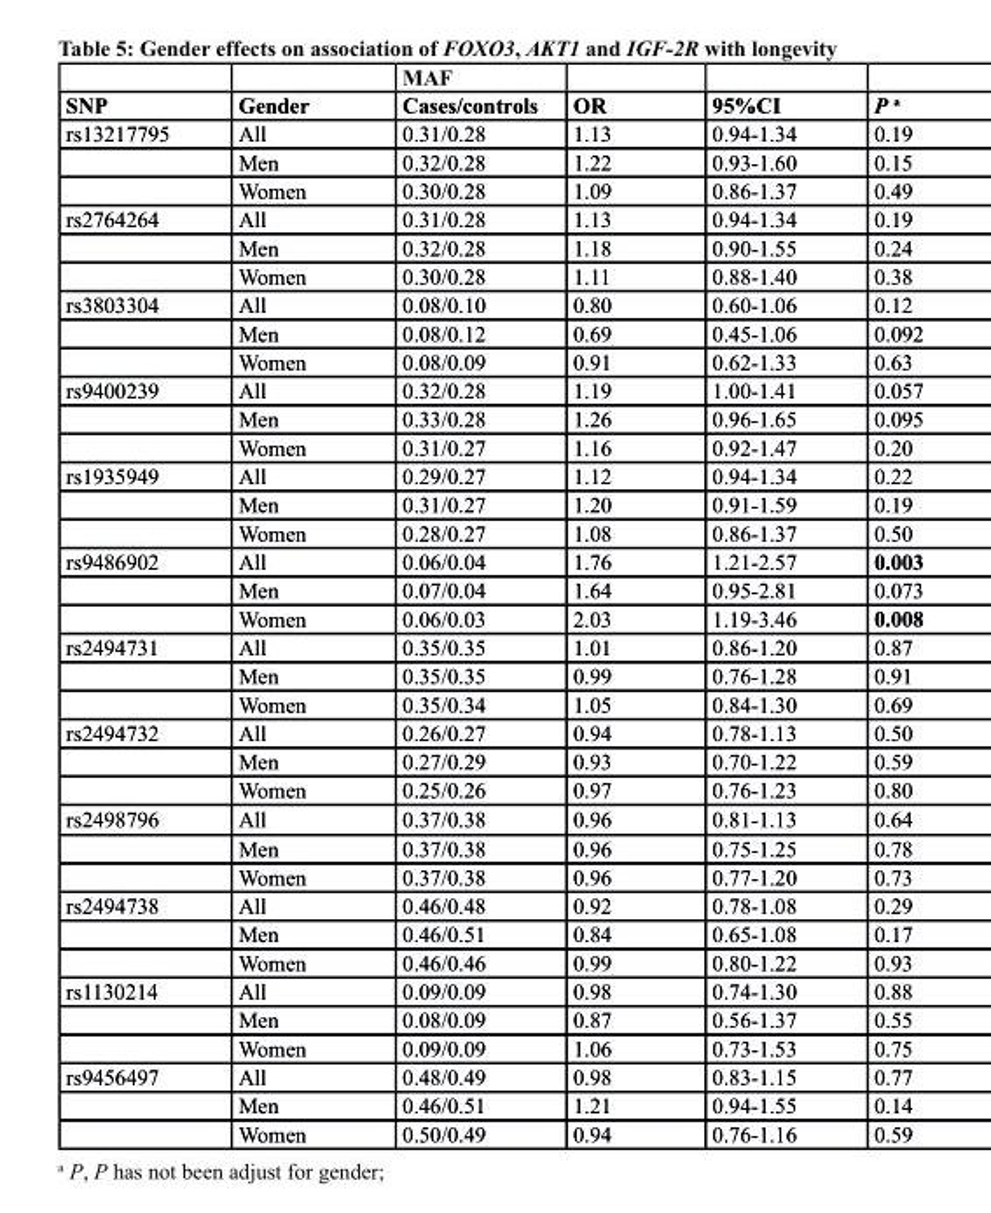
<table><thead><tr><td rowspan="2">sNP</td><td rowspan="2">Gender</td><td rowspan="2">MAF cases/controls</td><td rowspan="2">Or</td><td rowspan="2">95%cI</td><td rowspan="2">P <sup>a</sup></td></tr><tr></tr></thead><tbody><tr><td rowspan="3">rs13217795</td><td>All</td><td>0.31/0.28</td><td>1.13</td><td>0.94-1.34</td><td>0.19</td></tr><tr><td>Men</td><td>0.32/0.28</td><td>1.22</td><td>0.93-1.60</td><td>0.15</td></tr><tr><td>Women</td><td>0.30/0.28</td><td>1.09</td><td>0.86-1.37</td><td>0.49</td></tr><tr><td rowspan="3">rs2764264</td><td>All</td><td>0.31/0.28</td><td>1.13</td><td>0.94-1.34</td><td>0.19</td></tr><tr><td>Men</td><td>0.32/0.28</td><td>1.18</td><td>0.90-1.55</td><td>0.24</td></tr><tr><td>Women</td><td>0.30/0.28</td><td>1.11</td><td>0.88-1.40</td><td>0.38</td></tr><tr><td rowspan="3">rs3803304</td><td>All</td><td>0.08/0.10</td><td>0.80</td><td>0.60-1.06</td><td>0.12</td></tr><tr><td>Men</td><td>0.08/0.12</td><td>0.69</td><td>0.45-1.06</td><td>0.092</td></tr><tr><td>Women</td><td>0.08/0.09</td><td>0.91</td><td>0.62-1.33</td><td>0.63</td></tr><tr><td rowspan="3">rs9400239</td><td>All</td><td>0.32/0.28</td><td>1.19</td><td>1.00-1.41</td><td>0.057</td></tr><tr><td>Men</td><td>0.33/0.28</td><td>1.26</td><td>0.96-1.65</td><td>0.095</td></tr><tr><td>Women</td><td>0.31/0.27</td><td>1.16</td><td>0.92-1.47</td><td>0.20</td></tr><tr><td rowspan="3">rs1935949</td><td>All</td><td>0.29/0.27</td><td>1.12</td><td>0.94-1.34</td><td>0.22</td></tr><tr><td>Men</td><td>0.31/0.27</td><td>1.20</td><td>0.91-1.59</td><td>0.19</td></tr><tr><td>Women</td><td>0.28/0.27</td><td>1.08</td><td>0.86-1.37</td><td>0.50</td></tr><tr><td rowspan="3">rs9486902</td><td>All</td><td>0.06/0.04</td><td>1.76</td><td>1.21-2.57</td><td>0.003</td></tr><tr><td>Men</td><td>0.07/0.04</td><td>1.64</td><td>0.95-2.81</td><td>0.073</td></tr><tr><td>Women</td><td>0.06/0.03</td><td>2.03</td><td>1.19-3.46</td><td>0.008</td></tr><tr><td rowspan="3">rs2494731</td><td>All</td><td>0.35/0.35</td><td>1.01</td><td>0.86-1.20</td><td>0.87</td></tr><tr><td>Men</td><td>0.35/0.35</td><td>0.99</td><td>0.76-1.28</td><td>0.91</td></tr><tr><td>Women</td><td>0.35/0.34</td><td>1.05</td><td>0.84-1.30</td><td>0.69</td></tr><tr><td rowspan="3">rs2494732</td><td>All</td><td>0.26/0.27</td><td>0.94</td><td>0.78-1.13</td><td>0.50</td></tr><tr><td>Men</td><td>0.27/0.29</td><td>0.93</td><td>0.70-1.22</td><td>0.59</td></tr><tr><td>Women</td><td>0.25/0.26</td><td>0.97</td><td>0.76-1.23</td><td>0.80</td></tr><tr><td rowspan="3">rs2498796</td><td>All</td><td>0.37/0.38</td><td>0.96</td><td>0.81-1.13</td><td>0.64</td></tr><tr><td>Men</td><td>0.37/0.38</td><td>0.96</td><td>0.75-1.25</td><td>0.78</td></tr><tr><td>Women</td><td>0.37/0.38</td><td>0.96</td><td>0.77-1.20</td><td>0.73</td></tr><tr><td rowspan="3">rs2494738</td><td>All</td><td>0.46/0.48</td><td>0.92</td><td>0.78-1.08</td><td>0.29</td></tr><tr><td>Men</td><td>0.46/0.51</td><td>0.84</td><td>0.65-1.08</td><td>0.17</td></tr><tr><td>Women</td><td>0.46/0.46</td><td>0.99</td><td>0.80-1.22</td><td>0.93</td></tr><tr><td rowspan="3">rs1130214</td><td>All</td><td>0.09/0.09</td><td>0.98</td><td>0.74-1.30</td><td>0.88</td></tr><tr><td>Men</td><td>0.08/0.09</td><td>0.87</td><td>0.56-1.37</td><td>0.55</td></tr><tr><td>Women</td><td>0.09/0.09</td><td>1.06</td><td>0.73-1.53</td><td>0.75</td></tr><tr><td rowspan="3">rs9456497</td><td>All</td><td>0.48/0.49</td><td>0.98</td><td>0.83-1.15</td><td>0.77</td></tr><tr><td>Men</td><td>0.46/0.51</td><td>1.21</td><td>0.94-1.55</td><td>0.14</td></tr><tr><td>Women</td><td>0.50/0.49</td><td>0.94</td><td>0.76-1.16</td><td>0.59</td></tr></tbody></table>